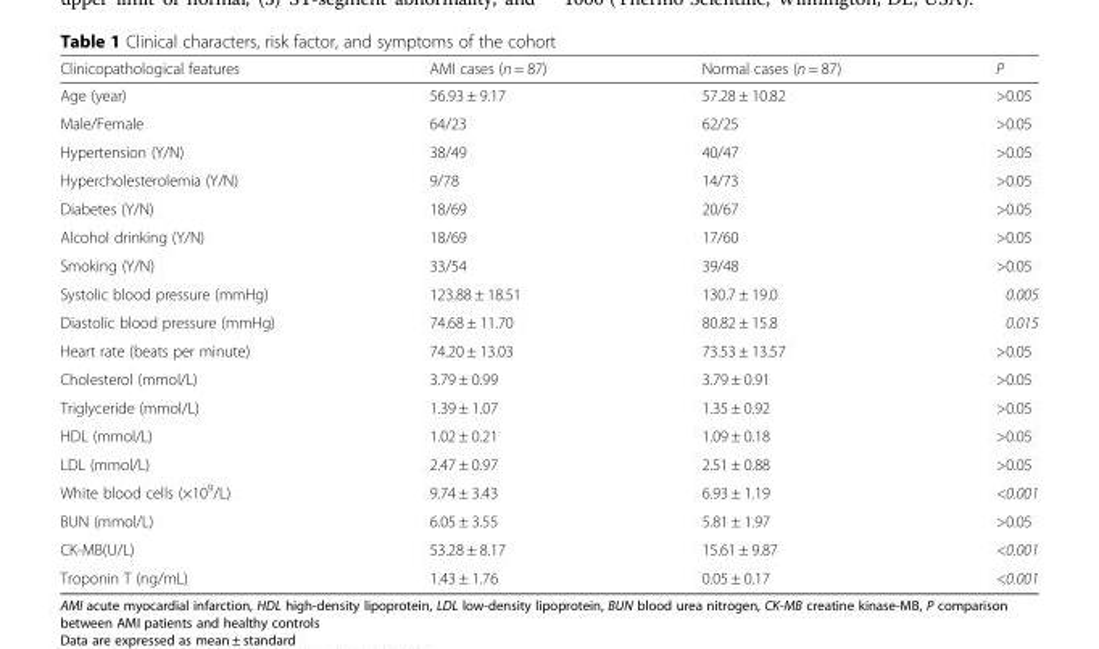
<table><thead><tr><td>Clinicopathological features</td><td>AMI cases (n = 87)</td><td>Normal cases (n = 87)</td><td>P</td></tr></thead><tbody><tr><td>Age (year)</td><td>56.93 ± 9.17</td><td>57.28 ± 10.82</td><td>&gt;0.05</td></tr><tr><td>Male/Female</td><td>64/23</td><td>62/25</td><td>&gt;0.05</td></tr><tr><td>Hypertension (Y/N)</td><td>38/49</td><td>40/47</td><td>&gt;0.05</td></tr><tr><td>Hypercholesterolemia (Y/N)</td><td>9/78</td><td>14/73</td><td>&gt;0.05</td></tr><tr><td>Diabetes (Y/N)</td><td>18/69</td><td>20/67</td><td>&gt;0.05</td></tr><tr><td>Alcohol drinking (Y/N)</td><td>18/69</td><td>17/60</td><td>&gt;0.05</td></tr><tr><td>Smoking (Y/N)</td><td>33/54</td><td>39/48</td><td>&gt;0.05</td></tr><tr><td>Systolic blood pressure (mmHg)</td><td>123.88 ± 18.51</td><td>130.7 ± 19.0</td><td>0.005</td></tr><tr><td>Diastolic blood pressure (mmHg)</td><td>74.68 ± 11.70</td><td>80.82 ± 15.8</td><td>0.015</td></tr><tr><td>Heart rate (beats per minute)</td><td>74.20 ± 13.03</td><td>73.53 ± 13.57</td><td>&gt;0.05</td></tr><tr><td>Cholesterol (mmol/L)</td><td>3.79 ± 0.99</td><td>3.79 ± 0.91</td><td>&gt;0.05</td></tr><tr><td>Triglyceride (mmol/L)</td><td>1.39 ± 1.07</td><td>1.35 ± 0.92</td><td>&gt;0.05</td></tr><tr><td>HDL (mmol/L)</td><td>1.02 ± 0.21</td><td>1.09 ± 0.18</td><td>&gt;0.05</td></tr><tr><td>LDL (mmol/L)</td><td>2.47 ± 0.97</td><td>2.51 ± 0.88</td><td>&gt;0.05</td></tr><tr><td>White blood cells (×10<sup>9</sup>/L)</td><td>9.74 ± 3.43</td><td>6.93 ± 1.19</td><td>&lt;0.001</td></tr><tr><td>BUN (mmol/L)</td><td>6.05 ± 3.55</td><td>5.81 ± 1.97</td><td>&gt;0.05</td></tr><tr><td>CK-MB(U/L)</td><td>53.28 ± 8.17</td><td>15.61 ± 9.87</td><td>&lt;0.001</td></tr><tr><td>Troponin T (ng/mL)</td><td>1.43 ± 1.76</td><td>0.05 ± 0.17</td><td>&lt;0.001</td></tr></tbody></table>